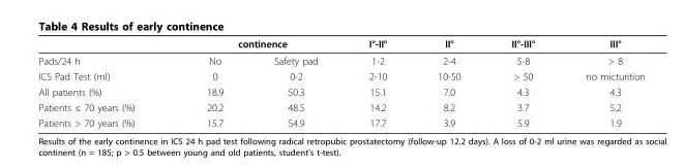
<table><thead><tr><td rowspan="2">Pads/24 h</td><td colspan="2">continence</td><td rowspan="2">I°-II° 1-2</td><td rowspan="2">II° 2-4</td><td rowspan="2">II°-III° 5-8</td><td rowspan="2">III° &gt; 8</td></tr><tr><td>No</td><td>Safety pad</td></tr></thead><tbody><tr><td>ICS Pad Test (ml)</td><td>0</td><td>0-2</td><td>2-10</td><td>10-50</td><td>&gt; 50</td><td>no micturition</td></tr><tr><td>All patients (%)</td><td>18.9</td><td>50.3</td><td>15.1</td><td>7.0</td><td>4.3</td><td>4.3</td></tr><tr><td>Patients ≤ 70 years (%)</td><td>20.2</td><td>48.5</td><td>14.2</td><td>8.2</td><td>3.7</td><td>5.2</td></tr><tr><td>Patients &gt; 70 years (%)</td><td>15.7</td><td>54.9</td><td>17.7</td><td>3.9</td><td>5.9</td><td>1.9</td></tr></tbody></table>